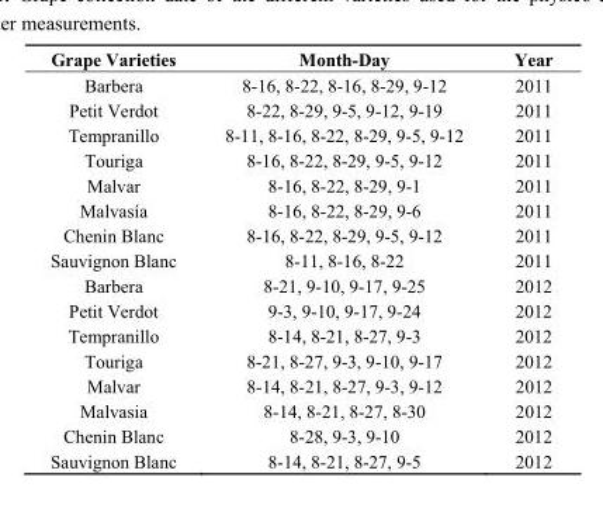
<table><thead><tr><td>Grape Varieties</td><td>Month-Day</td><td>Year</td></tr></thead><tbody><tr><td>Barbera</td><td>8-16, 8-22, 8-16, 8-29, 9-12</td><td>2011</td></tr><tr><td>Petit Verdot</td><td>8-22, 8-29, 9-5, 9-12, 9-19</td><td>2011</td></tr><tr><td>Tempranillo</td><td>8-11, 8-16, 8-22, 8-29, 9-5, 9-12</td><td>2011</td></tr><tr><td>Touriga</td><td>8-16, 8-22, 8-29, 9-5, 9-12</td><td>2011</td></tr><tr><td>Malvar</td><td>8-16, 8-22, 8-29, 9-1</td><td>2011</td></tr><tr><td>Malvasía</td><td>8-16, 8-22, 8-29, 9-6</td><td>2011</td></tr><tr><td>Chenin Blanc</td><td>8-16, 8-22, 8-29, 9-5, 9-12</td><td>2011</td></tr><tr><td>Sauvignon Blanc</td><td>8-11, 8-16, 8-22</td><td>2011</td></tr><tr><td>Barbera</td><td>8-21, 9-10, 9-17, 9-25</td><td>2012</td></tr><tr><td>Petit Verdot</td><td>9-3, 9-10, 9-17, 9-24</td><td>2012</td></tr><tr><td>Tempranillo</td><td>8-14, 8-21, 8-27, 9-3</td><td>2012</td></tr><tr><td>Touriga</td><td>8-21, 8-27, 9-3, 9-10, 9-17</td><td>2012</td></tr><tr><td>Malvar</td><td>8-14, 8-21, 8-27, 9-3, 9-12</td><td>2012</td></tr><tr><td>Malvasia</td><td>8-14, 8-21, 8-27, 8-30</td><td>2012</td></tr><tr><td>Chenin Blanc</td><td>8-28, 9-3, 9-10</td><td>2012</td></tr><tr><td>Sauvignon Blanc</td><td>8-14, 8-21, 8-27, 9-5</td><td>2012</td></tr></tbody></table>